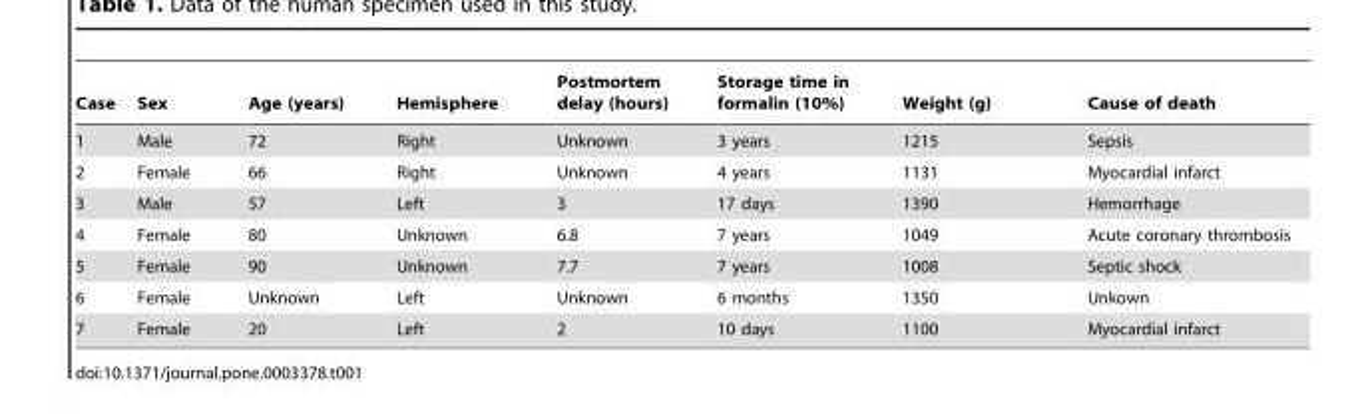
<table><thead><tr><td>Case</td><td>Sex</td><td>Age (years)</td><td>Hemisphere</td><td>Postmortem delay (hours)</td><td>Storage time in formalin (10%)</td><td>Weight (g)</td><td>Cause of death</td></tr></thead><tbody><tr><td>1</td><td>Male</td><td>72</td><td>Right</td><td>Unknown</td><td>3 years</td><td>1215</td><td>Sepsis</td></tr><tr><td>2</td><td>Female</td><td>66</td><td>Right</td><td>Unknown</td><td>4 years</td><td>1131</td><td>Myocardial infarct</td></tr><tr><td>3</td><td>Male</td><td>57</td><td>Left</td><td>3</td><td>17 days</td><td>1390</td><td>Hemorrhage</td></tr><tr><td>4</td><td>Female</td><td>80</td><td>Unknown</td><td>6.8</td><td>7 years</td><td>1049</td><td>Acute coronary thrombosis</td></tr><tr><td>5</td><td>Female</td><td>90</td><td>Unknown</td><td>7.7</td><td>7 years</td><td>1008</td><td>Septic shock</td></tr><tr><td>6</td><td>Female</td><td>Unknown</td><td>Left</td><td>Unknown</td><td>6 months</td><td>1350</td><td>Unkown</td></tr><tr><td>7</td><td>Female</td><td>20</td><td>Left</td><td>2</td><td>10 days</td><td>1100</td><td>Myocardial infarct</td></tr></tbody></table>